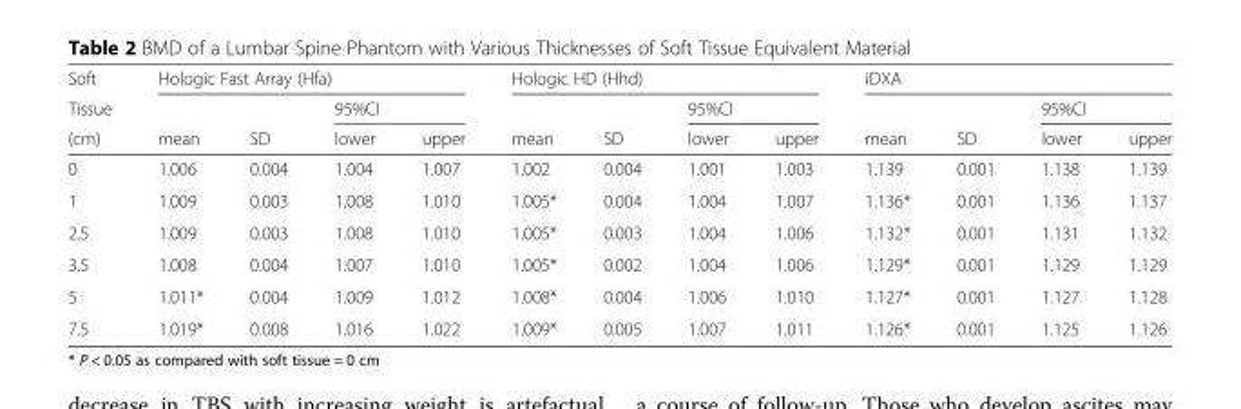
<table><thead><tr><td rowspan="3">Soft Tissue (cm)</td><td colspan="4">Hologic Fast Array (Hfa)</td><td colspan="4">Hologic HD (Hhd)</td><td colspan="4">iDXA</td></tr><tr><td rowspan="2">mean</td><td rowspan="2">SD</td><td colspan="2">95%CI</td><td rowspan="2">mean</td><td rowspan="2">SD</td><td colspan="2">95%CI</td><td rowspan="2">mean</td><td rowspan="2">SD</td><td colspan="2">95%CI</td></tr><tr><td>lower</td><td>upper</td><td>lower</td><td>upper</td><td>lower</td><td>upper</td></tr></thead><tbody><tr><td>0</td><td>1.006</td><td>0.004</td><td>1.004</td><td>1.007</td><td>1.002</td><td>0.004</td><td>1.001</td><td>1.003</td><td>1.139</td><td>0.001</td><td>1.138</td><td>1.139</td></tr><tr><td>1</td><td>1.009</td><td>0.003</td><td>1.008</td><td>1.010</td><td>1.005*</td><td>0.004</td><td>1.004</td><td>1.007</td><td>1.136*</td><td>0.001</td><td>1.136</td><td>1.137</td></tr><tr><td>2.5</td><td>1.009</td><td>0.003</td><td>1.008</td><td>1.010</td><td>1.005*</td><td>0.003</td><td>1.004</td><td>1.006</td><td>1.132*</td><td>0.001</td><td>1.131</td><td>1.132</td></tr><tr><td>3.5</td><td>1.008</td><td>0.004</td><td>1.007</td><td>1.010</td><td>1.005*</td><td>0.002</td><td>1.004</td><td>1.006</td><td>1.129*</td><td>0.001</td><td>1.129</td><td>1.129</td></tr><tr><td>5</td><td>1.011*</td><td>0.004</td><td>1.009</td><td>1.012</td><td>1.008*</td><td>0.004</td><td>1.006</td><td>1.010</td><td>1.127*</td><td>0.001</td><td>1.127</td><td>1.128</td></tr><tr><td>7.5</td><td>1.019*</td><td>0.008</td><td>1.016</td><td>1.022</td><td>1.009*</td><td>0.005</td><td>1.007</td><td>1.011</td><td>1.126*</td><td>0.001</td><td>1.125</td><td>1.126</td></tr></tbody></table>